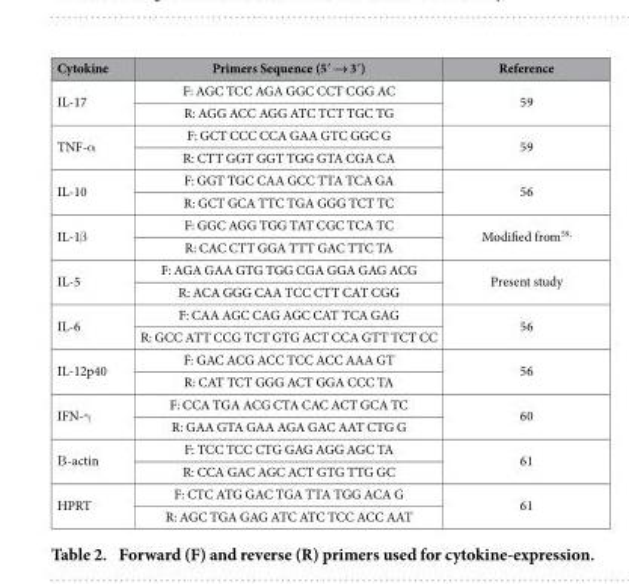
<table><thead><tr><td>Cytokine</td><td>Primers Sequence (5′ → 3′)</td><td>Reference</td></tr></thead><tbody><tr><td rowspan="2">IL-17</td><td>F: AGC TCC AGA GGC CCT CGG AC</td><td rowspan="2">59</td></tr><tr><td>R: AGG ACC AGG ATC TCT TGC TG</td></tr><tr><td rowspan="2">TNF-α</td><td>F: GCT CCC CCA GAA GTC GGC G</td><td rowspan="2">59</td></tr><tr><td>R: CTT GGT GGT TGG GTA CGA CA</td></tr><tr><td rowspan="2">IL-10</td><td>F: GGT TGC CAA GCC TTA TCA GA</td><td rowspan="2">56</td></tr><tr><td>R: GCT GCA TTC TGA GGG TCT TC</td></tr><tr><td rowspan="2">IL-1β</td><td>F: GGC AGG TGG TAT CGC TCA TC</td><td rowspan="2">Modified from<sup>59</sup>,</td></tr><tr><td>R: CAC CTT GGA TTT GAC TTC TA</td></tr><tr><td rowspan="2">IL-5</td><td>F: AGA GAA GTG TGG CGA GGA GAG ACG</td><td rowspan="2">Present study</td></tr><tr><td>R: ACA GGG CAA TCC CTT CAT CGG</td></tr><tr><td rowspan="2">IL-6</td><td>F: CAA AGC CAG AGC CAT TCA GAG</td><td rowspan="2">56</td></tr><tr><td>R: GCC ATT CCG TCT GTG ACT CCA GTT TCT CC</td></tr><tr><td rowspan="2">IL-12p40</td><td>F: GAC ACG ACC TCC ACC AAA GT</td><td rowspan="2">56</td></tr><tr><td>R: CAT TCT GGG ACT GGA CCC TA</td></tr><tr><td rowspan="2">IFN-γ</td><td>F: CCA TGA ACG CTA CAC ACT GCA TC</td><td rowspan="2">60</td></tr><tr><td>R: GAA GTA GAA AGA GAC AAT CTG G</td></tr><tr><td rowspan="2">Β -actin</td><td>F: TCC TCC CTG GAG AGG AGC TA</td><td rowspan="2">61</td></tr><tr><td>R: CCA GAC AGC ACT GTG TTG GC</td></tr><tr><td rowspan="2">HPRT</td><td>F: CTC ATG GAC TGA TTA TGG ACA G</td><td rowspan="2">61</td></tr><tr><td>R: AGC TGA GAG ATC ATC TCC ACC AAT</td></tr></tbody></table>